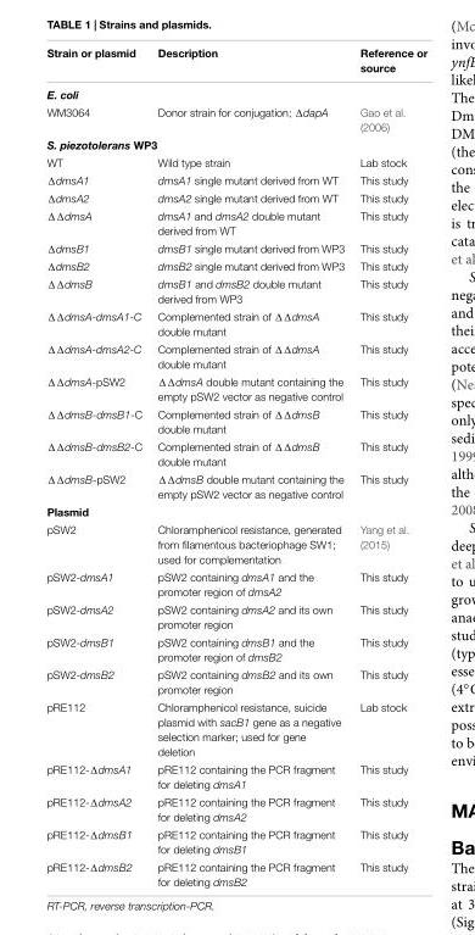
<table><thead><tr><td>Strain or plasmid</td><td>Description</td><td>Reference or source</td></tr></thead><tbody><tr><td colspan="3">E. coli</td></tr><tr><td>WM3064</td><td>Donor strain for conjugation; ΔdapA</td><td>Gao et al. (2006)</td></tr><tr><td colspan="3">S. piezotolerans WP3</td></tr><tr><td>WT</td><td>Wild type strain</td><td>Lab stock</td></tr><tr><td>ΔdmsA1</td><td>dmsA1 single mutant derived from WT</td><td>This study</td></tr><tr><td>ΔdmsA2</td><td>dmsA2 single mutant derived from WT</td><td>This study</td></tr><tr><td>ΔΔdmsA</td><td>dmsA1 and dmsA2 double mutant derived from WT</td><td>This study</td></tr><tr><td>ΔdmsB1</td><td>dmsB1 single mutant derived from WP3</td><td>This study</td></tr><tr><td>ΔdmsB2</td><td>dmsB2 single mutant derived from WP3</td><td>This study</td></tr><tr><td>ΔΔdmsB</td><td>dmsB1 and dmsB2 double mutant derived from WP3</td><td>This study</td></tr><tr><td>ΔΔdmsA-dmsA1-C</td><td>Complemented strain of ΔΔdmsA double mutant</td><td>This study</td></tr><tr><td>ΔΔdmsA-dmsA2-C</td><td>Complemented strain of ΔΔdmsA double mutant</td><td>This study</td></tr><tr><td>ΔΔdmsA-pSW2</td><td>ΔΔdmsA double mutant containing the empty pSW2 vector as negative control</td><td>This study</td></tr><tr><td>ΔΔdmsB-dmsB1-C</td><td>Complemented strain of ΔΔdmsB double mutant</td><td>This study</td></tr><tr><td>ΔΔdmsB-dmsB2-C</td><td>Complemented strain of ΔΔdmsB double mutant</td><td>This study</td></tr><tr><td>ΔΔdmsB-pSW2</td><td>ΔΔdmsB double mutant containing the empty pSW2 vector as negative control</td><td>This study</td></tr><tr><td colspan="3">Plasmid</td></tr><tr><td>pSW2</td><td>Chloramphenicol resistance, generated from filamentous bacteriophage SW1; used for complementation</td><td>Yang et al. (2015)</td></tr><tr><td>pSW2-dmsA1</td><td>pSW2 containing dmsA1 and the promoter region of dmsA2</td><td>This study</td></tr><tr><td>pSW2-dmsA2</td><td>pSW2 containing dmsA2 and its own promoter region</td><td>This study</td></tr><tr><td>pSW2-dmsB1</td><td>pSW2 containing dmsB1 and the promoter region of dmsB2</td><td>This study</td></tr><tr><td>pSW2-dmsB2</td><td>pSW2 containing dmsB2 and its own promoter region</td><td>This study</td></tr><tr><td>pRE112</td><td>Chloramphenicol resistance, suicide plasmid with sacB1 gene as a negative selection marker; used for gene deletion</td><td>Lab stock</td></tr><tr><td>pRE112-ΔdmsA1</td><td>pRE112 containing the PCR fragment for deleting dmsA1</td><td>This study</td></tr><tr><td>pRE112-ΔdmsA2</td><td>pRE112 containing the PCR fragment for deleting dmsA2</td><td>This study</td></tr><tr><td>pRE112-ΔdmsB1</td><td>pRE112 containing the PCR fragment for deleting dmsB1</td><td>This study</td></tr><tr><td>pRE112-ΔdmsB2</td><td>pRE112 containing the PCR fragment for deleting dmsB2</td><td>This study</td></tr></tbody></table>